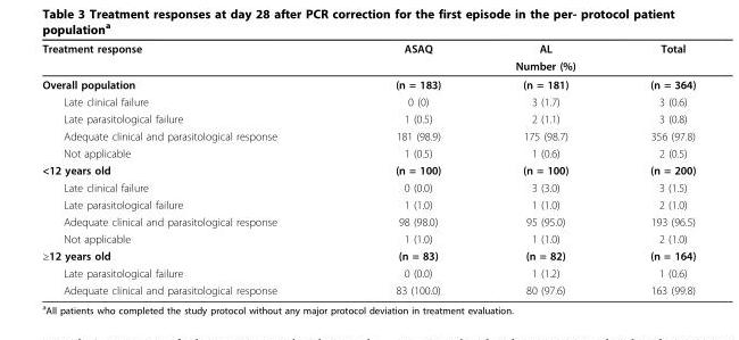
<table><thead><tr><td rowspan="2">Treatment response</td><td>ASAQ</td><td>AL</td><td>Total</td></tr><tr><td colspan="3">Number (%)</td></tr></thead><tbody><tr><td>Overall population</td><td>(n = 183)</td><td>(n = 181)</td><td>(n = 364)</td></tr><tr><td>Late clinical failure</td><td>0 (0)</td><td>3 (1.7)</td><td>3 (0.6)</td></tr><tr><td>Late parasitological failure</td><td>1 (0.5)</td><td>2 (1.1)</td><td>3 (0.8)</td></tr><tr><td>Adequate clinical and parasitological response</td><td>181 (98.9)</td><td>175 (98.7)</td><td>356 (97.8)</td></tr><tr><td>Not applicable</td><td>1 (0.5)</td><td>1 (0.6)</td><td>2 (0.5)</td></tr><tr><td>&lt;12 years old</td><td>(n = 100)</td><td>(n = 100)</td><td>(n = 200)</td></tr><tr><td>Late clinical failure</td><td>0 (0.0)</td><td>3 (3.0)</td><td>3 (1.5)</td></tr><tr><td>Late parasitological failure</td><td>1 (1.0)</td><td>1 (1.0)</td><td>2 (1.0)</td></tr><tr><td>Adequate clinical and parasitological response</td><td>98 (98.0)</td><td>95 (95.0)</td><td>193 (96.5)</td></tr><tr><td>Not applicable</td><td>1 (1.0)</td><td>1 (1.0)</td><td>2 (1.0)</td></tr><tr><td>≥12 years old</td><td>(n = 83)</td><td>(n = 82)</td><td>(n = 164)</td></tr><tr><td>Late parasitological failure</td><td>0 (0.0)</td><td>1 (1.2)</td><td>1 (0.6)</td></tr><tr><td>Adequate clinical and parasitological response</td><td>83 (100.0)</td><td>80 (97.6)</td><td>163 (99.8)</td></tr></tbody></table>